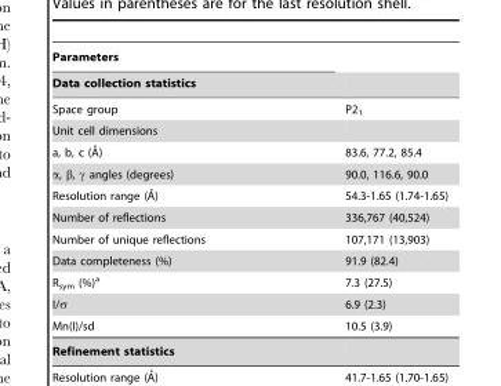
<table><thead><tr><td rowspan="2">Parameters Data collection statistics</td><td rowspan="2"></td></tr><tr></tr></thead><tbody><tr><td>Space group</td><td>P2<sub>1</sub></td></tr><tr><td colspan="2">Unit cell dimensions</td></tr><tr><td>a, b, c (A˚)</td><td>83.6, 77.2, 85.4</td></tr><tr><td>α, β, γ angles (degrees)</td><td>90.0, 116.6, 90.0</td></tr><tr><td>Resolution range (A˚)</td><td>54.3-1.65 (1.74-1.65)</td></tr><tr><td>Number of reflections</td><td>336,767 (40,524)</td></tr><tr><td>Number of unique reflections</td><td>107,171 (13,903)</td></tr><tr><td>Data completeness (%)</td><td>91.9 (82.4)</td></tr><tr><td>R<sub>sym</sub> (%)<sup>a</sup></td><td>7.3 (27.5)</td></tr><tr><td>I/σ</td><td>6.9 (2.3)</td></tr><tr><td>Mn(I)/sd</td><td>10.5 (3.9)</td></tr></tbody></table>